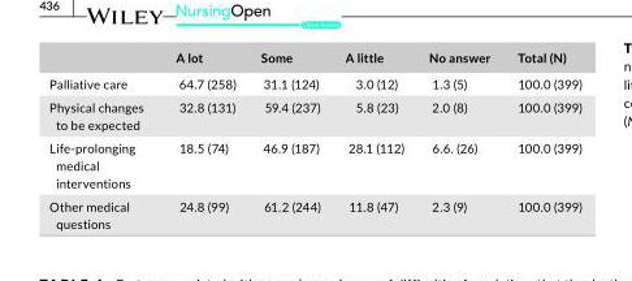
<table><thead><tr><td></td><td>A lot</td><td>Some</td><td>A little</td><td>No answer</td><td>Total (N)</td></tr></thead><tbody><tr><td>Palliative care</td><td>64.7 (258)</td><td>31.1 (124)</td><td>3.0 (12)</td><td>1.3 (5)</td><td>100.0 (399)</td></tr><tr><td>Physical changes to be expected</td><td>32.8 (131)</td><td>59.4 (237)</td><td>5.8 (23)</td><td>2.0 (8)</td><td>100.0 (399)</td></tr><tr><td>Life- prolonging medical interventions</td><td>18.5 (74)</td><td>46.9 (187)</td><td>28.1 (112)</td><td>6.6. (26)</td><td>100.0 (399)</td></tr><tr><td>Other medical questions</td><td>24.8 (99)</td><td>61.2 (244)</td><td>11.8 (47)</td><td>2.3 (9)</td><td>100.0 (399)</td></tr></tbody></table>